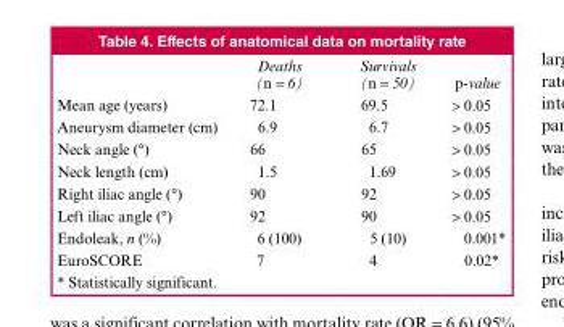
<table><thead><tr><td></td><td>Deaths (n = 6)</td><td>Survivals (n = 50)</td><td>p-value</td></tr></thead><tbody><tr><td>Mean age (years)</td><td>72.1</td><td>69.5</td><td>&gt; 0.05</td></tr><tr><td>Aneurysm diameter (cm)</td><td>6.9</td><td>6.7</td><td>&gt; 0.05</td></tr><tr><td>Neck angle (°)</td><td>66</td><td>65</td><td>&gt; 0.05</td></tr><tr><td>Neck length (cm)</td><td>1.5</td><td>1.69</td><td>&gt; 0.05</td></tr><tr><td>Right iliac angle (°)</td><td>90</td><td>92</td><td>&gt; 0.05</td></tr><tr><td>Left iliac angle (°)</td><td>92</td><td>90</td><td>&gt; 0.05</td></tr><tr><td>Endoleak, n (%)</td><td>6 (100)</td><td>5 (10)</td><td>0.001*</td></tr><tr><td>EuroSCORE</td><td>7</td><td>4</td><td>0.02*</td></tr></tbody></table>